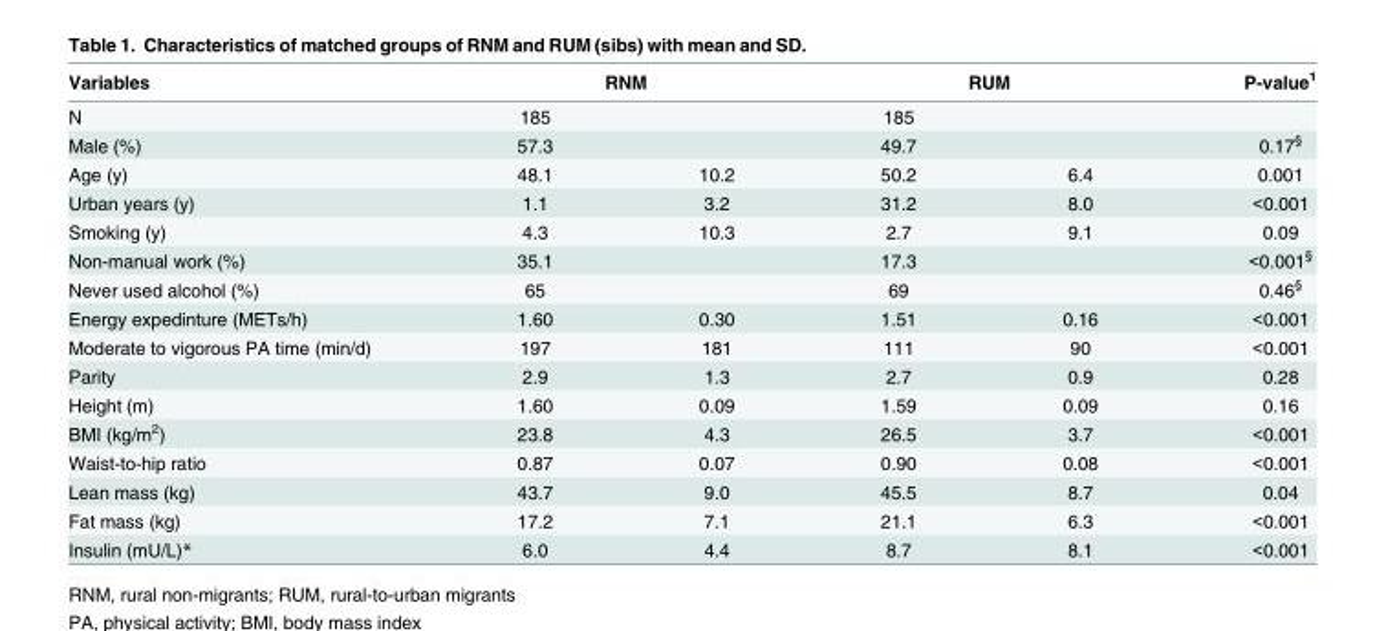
<table><thead><tr><td rowspan="2">Variables N</td><td colspan="2">RNM</td><td colspan="2">RUM</td><td rowspan="2">P-value<sup>1</sup></td></tr><tr><td>185</td><td></td><td>185</td><td></td></tr></thead><tbody><tr><td>Male (%)</td><td>57.3</td><td></td><td>49.7</td><td></td><td>0.17<sup>§</sup></td></tr><tr><td>Age (y)</td><td>48.1</td><td>10.2</td><td>50.2</td><td>6.4</td><td>0.001</td></tr><tr><td>Urban years (y)</td><td>1.1</td><td>3.2</td><td>31.2</td><td>8.0</td><td>&lt;0.001</td></tr><tr><td>Smoking (y)</td><td>4.3</td><td>10.3</td><td>2.7</td><td>9.1</td><td>0.09</td></tr><tr><td>Non-manual work (%)</td><td>35.1</td><td></td><td>17.3</td><td></td><td>&lt;0.001<sup>§</sup></td></tr><tr><td>Never used alcohol (%)</td><td>65</td><td></td><td>69</td><td></td><td>0.46<sup>§</sup></td></tr><tr><td>Energy expedinture (METs/h)</td><td>1.60</td><td>0.30</td><td>1.51</td><td>0.16</td><td>&lt;0.001</td></tr><tr><td>Moderate to vigorous PA time (min/d)</td><td>197</td><td>181</td><td>111</td><td>90</td><td>&lt;0.001</td></tr><tr><td>Parity</td><td>2.9</td><td>1.3</td><td>2.7</td><td>0.9</td><td>0.28</td></tr><tr><td>Height (m)</td><td>1.60</td><td>0.09</td><td>1.59</td><td>0.09</td><td>0.16</td></tr><tr><td>BMI (kg/m<sup>2</sup>)</td><td>23.8</td><td>4.3</td><td>26.5</td><td>3.7</td><td>&lt;0.001</td></tr><tr><td>Waist-to-hip ratio</td><td>0.87</td><td>0.07</td><td>0.90</td><td>0.08</td><td>&lt;0.001</td></tr><tr><td>Lean mass (kg)</td><td>43.7</td><td>9.0</td><td>45.5</td><td>8.7</td><td>0.04</td></tr><tr><td>Fat mass (kg)</td><td>17.2</td><td>7.1</td><td>21.1</td><td>6.3</td><td>&lt;0.001</td></tr><tr><td>Insulin (mU/L)*</td><td>6.0</td><td>4.4</td><td>8.7</td><td>8.1</td><td>&lt;0.001</td></tr></tbody></table>